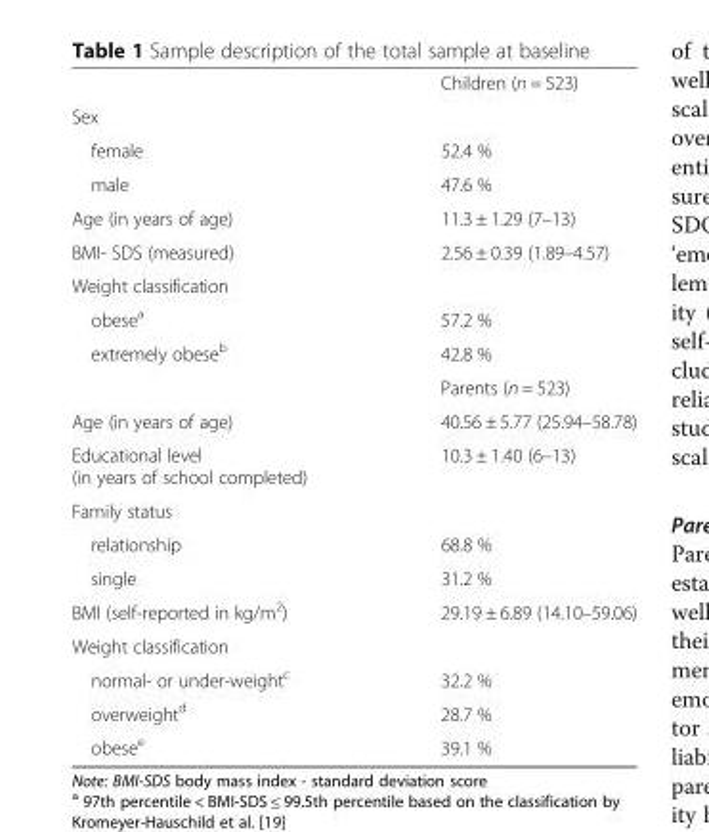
<table><thead><tr><td></td><td>Children (n = 523)</td></tr></thead><tbody><tr><td colspan="2">Sex</td></tr><tr><td>female</td><td>52.4 %</td></tr><tr><td>male</td><td>47.6 %</td></tr><tr><td>Age (in years of age)</td><td>11.3 ± 1.29 (7–13)</td></tr><tr><td>BMI- SDS (measured)</td><td>2.56 ± 0.39 (1.89–4.57)</td></tr><tr><td colspan="2">Weight classification</td></tr><tr><td>obese<sup>a</sup></td><td>57.2 %</td></tr><tr><td rowspan="2">extremely obese<sup>b</sup></td><td>42.8 %</td></tr><tr><td>Parents (n = 523)</td></tr><tr><td>Age (in years of age)</td><td>40.56 ± 5.77 (25.94–58.78)</td></tr><tr><td>Educational level (in years of school completed)</td><td>10.3 ± 1.40 (6–13)</td></tr><tr><td colspan="2">Family status</td></tr><tr><td>relationship</td><td>68.8 %</td></tr><tr><td>single</td><td>31.2 %</td></tr><tr><td>BMI (self-reported in kg/m<sup>2</sup>)</td><td>29.19 ± 6.89 (14.10–59.06)</td></tr><tr><td colspan="2">Weight classification</td></tr><tr><td>normal- or under-weight<sup>c</sup></td><td>32.2 %</td></tr><tr><td>overweight<sup>d</sup></td><td>28.7 %</td></tr><tr><td>obese<sup>e</sup></td><td>39.1 %</td></tr></tbody></table>